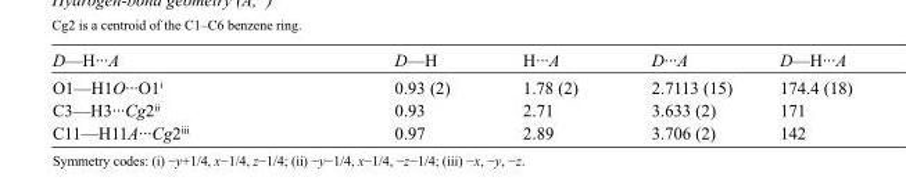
<table><tbody><tr><td>D—H···A</td><td>D—H</td><td>H···A</td><td>D···A</td><td>D—H···A</td></tr><tr><td>O1—H1O···O1<sup>i</sup></td><td>0.93 (2)</td><td>1.78 (2)</td><td>2.7113 (15)</td><td>174.4 (18)</td></tr><tr><td>C3—H3···Cg2<sup>ii</sup></td><td>0.93</td><td>2.71</td><td>3.633 (2)</td><td>171</td></tr><tr><td>C11—H11A···Cg2<sup>iii</sup></td><td>0.97</td><td>2.89</td><td>3.706 (2)</td><td>142</td></tr></tbody></table>